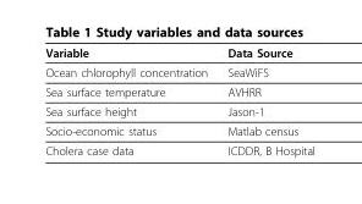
<table><thead><tr><td>Variable</td><td>Data Source</td></tr></thead><tbody><tr><td>Ocean chlorophyll concentration</td><td>SeaWiFS</td></tr><tr><td>Sea surface temperature</td><td>AVHRR</td></tr><tr><td>Sea surface height</td><td>Jason-1</td></tr><tr><td>Socio-economic status</td><td>Matlab census</td></tr><tr><td>Cholera case data</td><td>ICDDR, B Hospital</td></tr></tbody></table>